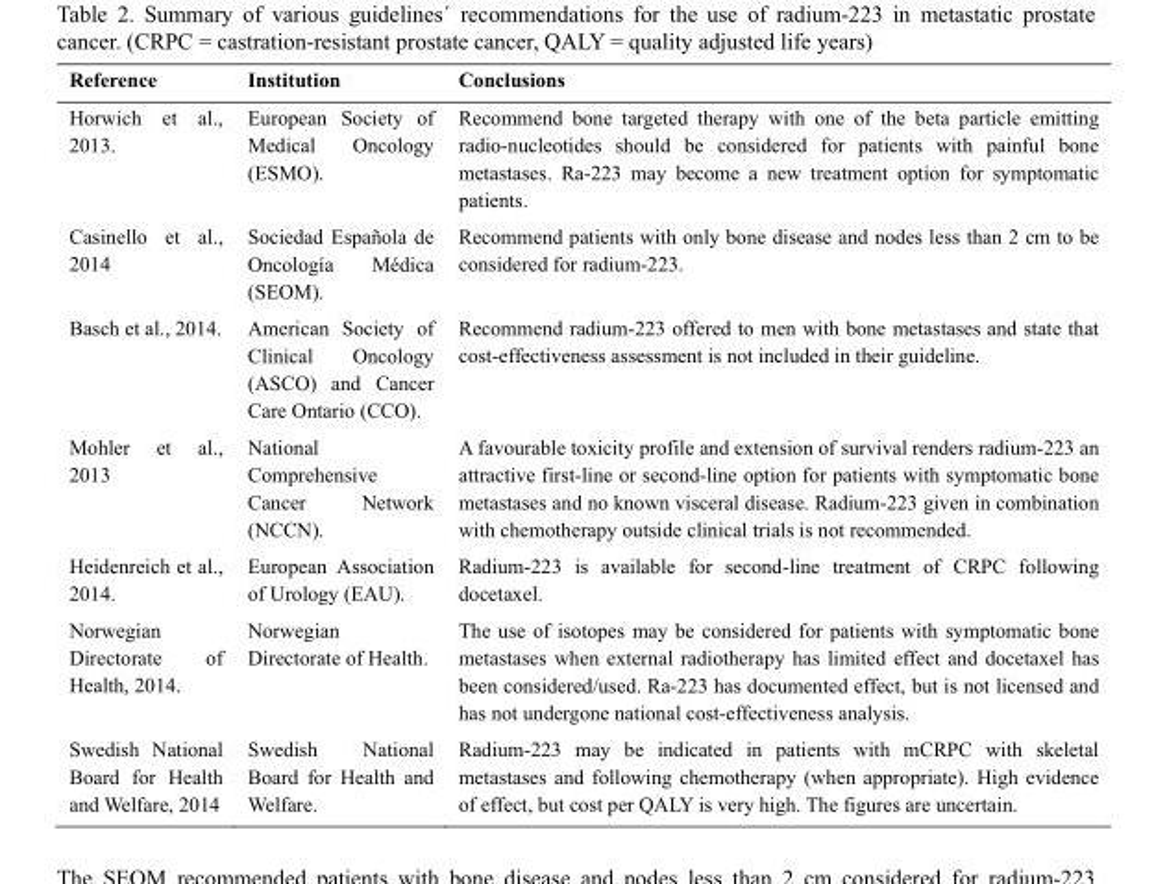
<table><thead><tr><td>Reference</td><td>Institution</td><td>Conclusions</td></tr></thead><tbody><tr><td>Horwich et al., 2013.</td><td>European Society of Medical Oncology (ESMO).</td><td>Recommend bone targeted therapy with one of the beta particle emitting radio-nucleotides should be considered for patients with painful bone metastases. Ra-223 may become a new treatment option for symptomatic patients.</td></tr><tr><td>Casinello et al., 2014</td><td>Sociedad Española de Oncología Médica (SEOM).</td><td>Recommend patients with only bone disease and nodes less than 2 cm to be considered for radium-223.</td></tr><tr><td>Basch et al., 2014.</td><td>American Society of Clinical Oncology (ASCO) and Cancer Care Ontario (CCO).</td><td>Recommend radium-223 offered to men with bone metastases and state that cost-effectiveness assessment is not included in their guideline.</td></tr><tr><td>Mohler et al., 2013</td><td>National Comprehensive Cancer Network (NCCN).</td><td>A favourable toxicity profile and extension of survival renders radium-223 an attractive first-line or second-line option for patients with symptomatic bone metastases and no known visceral disease. Radium-223 given in combination with chemotherapy outside clinical trials is not recommended.</td></tr><tr><td>Heidenreich et al., 2014.</td><td>European Association of Urology (EAU).</td><td>Radium-223 is available for second-line treatment of CRPC following docetaxel.</td></tr><tr><td>Norwegian Directorate of Health, 2014.</td><td>Norwegian Directorate of Health.</td><td>The use of isotopes may be considered for patients with symptomatic bone metastases when external radiotherapy has limited effect and docetaxel has been considered/used. Ra-223 has documented effect, but is not licensed and has not undergone national cost-effectiveness analysis.</td></tr><tr><td>Swedish National Board for Health and Welfare, 2014</td><td>Swedish National Board for Health and Welfare.</td><td>Radium-223 may be indicated in patients with mCRPC with skeletal metastases and following chemotherapy (when appropriate). High evidence of effect, but cost per QALY is very high. The figures are uncertain.</td></tr></tbody></table>